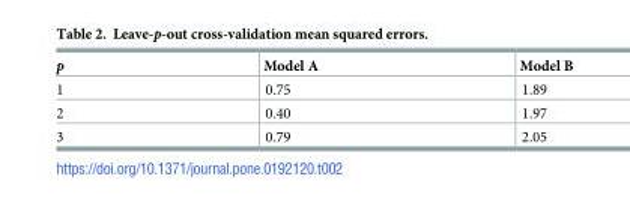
<table><thead><tr><td>p</td><td>Model A</td><td>Model B</td></tr></thead><tbody><tr><td>1</td><td>0.75</td><td>1.89</td></tr><tr><td>2</td><td>0.40</td><td>1.97</td></tr><tr><td>3</td><td>0.79</td><td>2.05</td></tr></tbody></table>